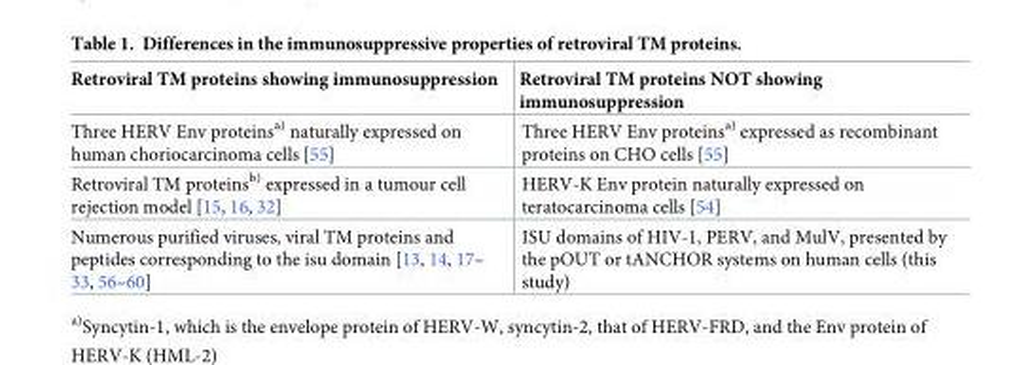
<table><thead><tr><td>Retroviral TM proteins showing immunosuppression</td><td>Retroviral TM proteins NOT showing immunosuppression</td></tr></thead><tbody><tr><td>Three HERV Env proteins<sup>a)</sup> naturally expressed on human choriocarcinoma cells [55]</td><td>Three HERV Env proteins<sup>a)</sup> expressed as recombinant proteins on CHO cells [55]</td></tr><tr><td>Retroviral TM proteins<sup>b)</sup> expressed in a tumour cell rejection model [15, 16, 32]</td><td>HERV-K Env protein naturally expressed on teratocarcinoma cells [54]</td></tr><tr><td>Numerous purified viruses, viral TM proteins and peptides corresponding to the isu domain [13, 14, 17– 33, 56–60]</td><td>ISU domains of HIV-1, PERV, and MulV, presented by the pOUT or tANCHOR systems on human cells (this study)</td></tr></tbody></table>